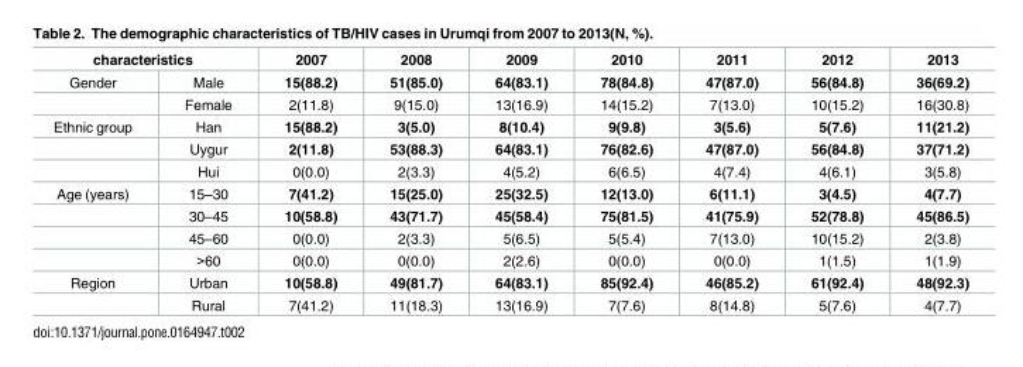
<table><thead><tr><td colspan="2">characteristics</td><td rowspan="2">2007 15(88.2)</td><td rowspan="2">2008 51(85.0)</td><td rowspan="2">2009 64(83.1)</td><td rowspan="2">2010 78(84.8)</td><td rowspan="2">2011 47(87.0)</td><td rowspan="2">2012 56(84.8)</td><td rowspan="2">2013 36(69.2)</td></tr><tr><td>Gender</td><td>Male</td></tr></thead><tbody><tr><td></td><td>Female</td><td>2(11.8)</td><td>9(15.0)</td><td>13(16.9)</td><td>14(15.2)</td><td>7(13.0)</td><td>10(15.2)</td><td>16(30.8)</td></tr><tr><td rowspan="3">Ethnic group</td><td>Han</td><td>15(88.2)</td><td>3(5.0)</td><td>8(10.4)</td><td>9(9.8)</td><td>3(5.6)</td><td>5(7.6)</td><td>11(21.2)</td></tr><tr><td>Uygur</td><td>2(11.8)</td><td>53(88.3)</td><td>64(83.1)</td><td>76(82.6)</td><td>47(87.0)</td><td>56(84.8)</td><td>37(71.2)</td></tr><tr><td>Hui</td><td>0(0.0)</td><td>2(3.3)</td><td>4(5.2)</td><td>6(6.5)</td><td>4(7.4)</td><td>4(6.1)</td><td>3(5.8)</td></tr><tr><td rowspan="4">Age (years)</td><td>15–30</td><td>7(41.2)</td><td>15(25.0)</td><td>25(32.5)</td><td>12(13.0)</td><td>6(11.1)</td><td>3(4.5)</td><td>4(7.7)</td></tr><tr><td>30–45</td><td>10(58.8)</td><td>43(71.7)</td><td>45(58.4)</td><td>75(81.5)</td><td>41(75.9)</td><td>52(78.8)</td><td>45(86.5)</td></tr><tr><td>45–60</td><td>0(0.0)</td><td>2(3.3)</td><td>5(6.5)</td><td>5(5.4)</td><td>7(13.0)</td><td>10(15.2)</td><td>2(3.8)</td></tr><tr><td>&gt;60</td><td>0(0.0)</td><td>0(0.0)</td><td>2(2.6)</td><td>0(0.0)</td><td>0(0.0)</td><td>1(1.5)</td><td>1(1.9)</td></tr><tr><td rowspan="2">Region</td><td>Urban</td><td>10(58.8)</td><td>49(81.7)</td><td>64(83.1)</td><td>85(92.4)</td><td>46(85.2)</td><td>61(92.4)</td><td>48(92.3)</td></tr><tr><td>Rural</td><td>7(41.2)</td><td>11(18.3)</td><td>13(16.9)</td><td>7(7.6)</td><td>8(14.8)</td><td>5(7.6)</td><td>4(7.7)</td></tr></tbody></table>